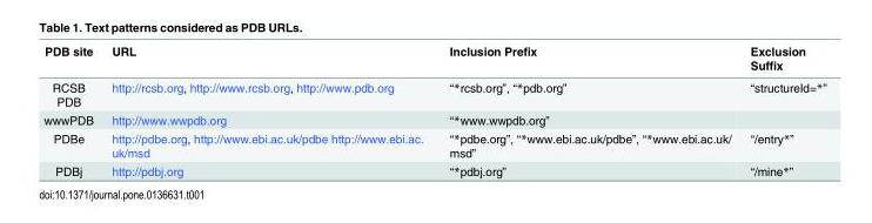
<table><thead><tr><td>PDB site</td><td>URL</td><td>Inclusion Prefix</td><td>Exclusion Suffix</td></tr></thead><tbody><tr><td>RCSB PDB</td><td>http://rcsb.org, http://www.rcsb.org, http://www.pdb.org</td><td>“*rcsb.org”, “*pdb.org”</td><td>“structureId=*”</td></tr><tr><td>wwwPDB</td><td>http://www.wwpdb.org</td><td>“*www.wwpdb.org”</td><td></td></tr><tr><td>PDBe</td><td>http://pdbe.org, http://www.ebi.ac.uk/pdbe http://www.ebi.ac. uk/msd</td><td>“*pdbe.org”, “*www.ebi.ac.uk/pdbe”, “*www.ebi.ac.uk/ msd”</td><td>“/entry*”</td></tr><tr><td>PDBj</td><td>http://pdbj.org</td><td>“*pdbj.org”</td><td>“/mine*”</td></tr></tbody></table>